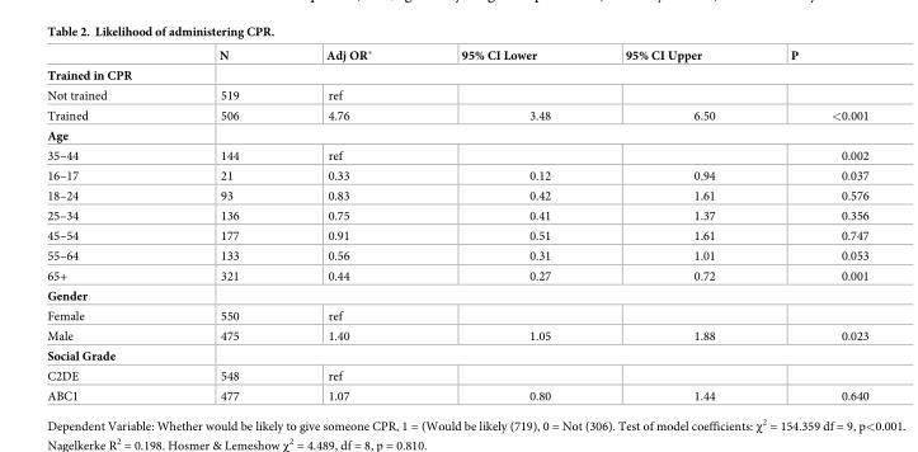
<table><thead><tr><td></td><td>N</td><td>Adj OR*</td><td>95% CI Lower</td><td>95% CI Upper</td><td>P</td></tr></thead><tbody><tr><td colspan="6">Trained in CPR</td></tr><tr><td>Not trained</td><td>519</td><td>ref</td><td></td><td></td><td></td></tr><tr><td>Trained</td><td>506</td><td>4.76</td><td>3.48</td><td>6.50</td><td>&lt;0.001</td></tr><tr><td colspan="6">Age</td></tr><tr><td>35–44</td><td>144</td><td>ref</td><td></td><td></td><td>0.002</td></tr><tr><td>16–17</td><td>21</td><td>0.33</td><td>0.12</td><td>0.94</td><td>0.037</td></tr><tr><td>18–24</td><td>93</td><td>0.83</td><td>0.42</td><td>1.61</td><td>0.576</td></tr><tr><td>25–34</td><td>136</td><td>0.75</td><td>0.41</td><td>1.37</td><td>0.356</td></tr><tr><td>45–54</td><td>177</td><td>0.91</td><td>0.51</td><td>1.61</td><td>0.747</td></tr><tr><td>55–64</td><td>133</td><td>0.56</td><td>0.31</td><td>1.01</td><td>0.053</td></tr><tr><td>65+</td><td>321</td><td>0.44</td><td>0.27</td><td>0.72</td><td>0.001</td></tr><tr><td colspan="6">Gender</td></tr><tr><td>Female</td><td>550</td><td>ref</td><td></td><td></td><td></td></tr><tr><td>Male</td><td>475</td><td>1.40</td><td>1.05</td><td>1.88</td><td>0.023</td></tr><tr><td colspan="6">Social Grade</td></tr><tr><td>C2DE</td><td>548</td><td>ref</td><td></td><td></td><td></td></tr><tr><td>ABC1</td><td>477</td><td>1.07</td><td>0.80</td><td>1.44</td><td>0.640</td></tr></tbody></table>